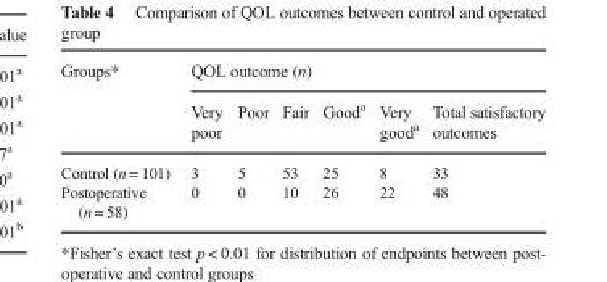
<table><thead><tr><td rowspan="2">Groups*</td><td colspan="6">QOL outcome (n)</td></tr><tr><td>Very poor</td><td>Poor</td><td>Fair</td><td>Good<sup>a</sup></td><td>Very good<sup>a</sup></td><td>Total satisfactory outcomes</td></tr></thead><tbody><tr><td>Control (n = 101)</td><td>3</td><td>5</td><td>53</td><td>25</td><td>8</td><td>33</td></tr><tr><td>Postoperative (n = 58)</td><td>0</td><td>0</td><td>10</td><td>26</td><td>22</td><td>48</td></tr></tbody></table>